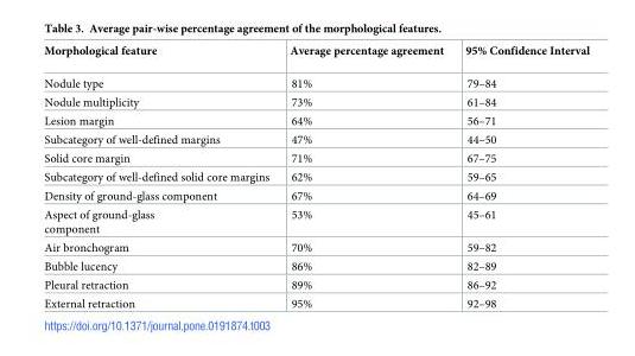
<table><thead><tr><td>Morphological feature</td><td>Average percentage agreement</td><td>95% Confidence Interval</td></tr></thead><tbody><tr><td>Nodule type</td><td>81%</td><td>79–84</td></tr><tr><td>Nodule multiplicity</td><td>73%</td><td>61–84</td></tr><tr><td>Lesion margin</td><td>64%</td><td>56–71</td></tr><tr><td>Subcategory of well-defined margins</td><td>47%</td><td>44–50</td></tr><tr><td>Solid core margin</td><td>71%</td><td>67–75</td></tr><tr><td>Subcategory of well-defined solid core margins</td><td>62%</td><td>59–65</td></tr><tr><td>Density of ground-glass component</td><td>67%</td><td>64–69</td></tr><tr><td>Aspect of ground-glass component</td><td>53%</td><td>45–61</td></tr><tr><td>Air bronchogram</td><td>70%</td><td>59–82</td></tr><tr><td>Bubble lucency</td><td>86%</td><td>82–89</td></tr><tr><td>Pleural retraction</td><td>89%</td><td>86–92</td></tr><tr><td>External retraction</td><td>95%</td><td>92–98</td></tr></tbody></table>